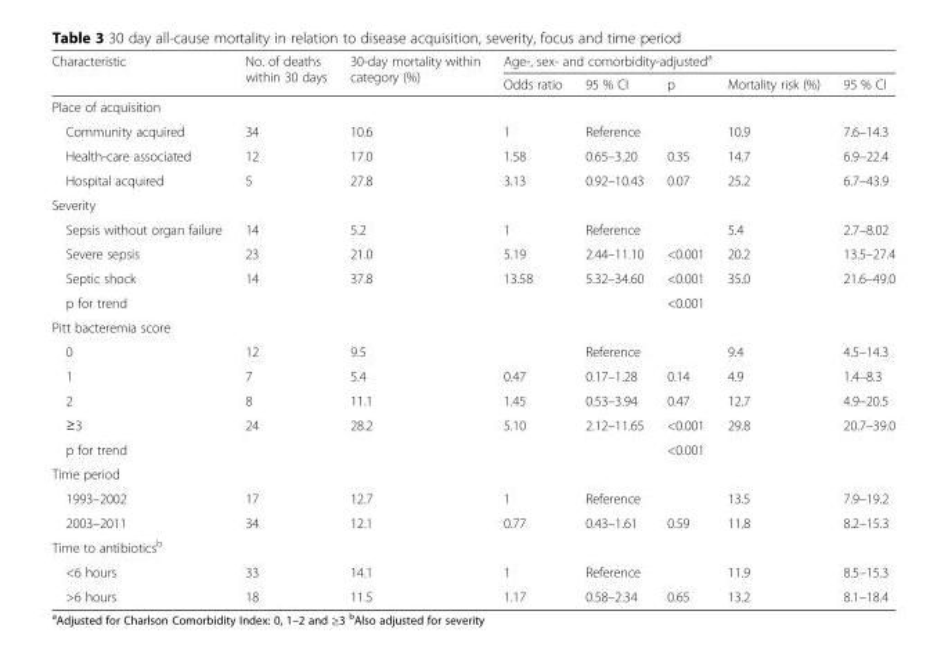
<table><thead><tr><td rowspan="2">Characteristic</td><td rowspan="2">No. of deaths within 30 days</td><td rowspan="2">30-day mortality within category (%)</td><td colspan="5">Age-, sex- and comorbidity-adjusted<sup>a</sup></td></tr><tr><td>Odds ratio</td><td>95 % CI</td><td>p</td><td>Mortality risk (%)</td><td>95 % CI</td></tr></thead><tbody><tr><td colspan="8">Place of acquisition</td></tr><tr><td>Community acquired</td><td>34</td><td>10.6</td><td>1</td><td>Reference</td><td></td><td>10.9</td><td>7.6–14.3</td></tr><tr><td>Health-care associated</td><td>12</td><td>17.0</td><td>1.58</td><td>0.65–3.20</td><td>0.35</td><td>14.7</td><td>6.9–22.4</td></tr><tr><td>Hospital acquired</td><td>5</td><td>27.8</td><td>3.13</td><td>0.92–10.43</td><td>0.07</td><td>25.2</td><td>6.7–43.9</td></tr><tr><td colspan="8">Severity</td></tr><tr><td>Sepsis without organ failure</td><td>14</td><td>5.2</td><td>1</td><td>Reference</td><td></td><td>5.4</td><td>2.7–8.02</td></tr><tr><td>Severe sepsis</td><td>23</td><td>21.0</td><td>5.19</td><td>2.44–11.10</td><td>&lt;0.001</td><td>20.2</td><td>13.5–27.4</td></tr><tr><td>Septic shock</td><td>14</td><td>37.8</td><td>13.58</td><td>5.32–34.60</td><td>&lt;0.001</td><td>35.0</td><td>21.6–49.0</td></tr><tr><td>p for trend</td><td></td><td></td><td></td><td></td><td>&lt;0.001</td><td></td><td></td></tr><tr><td colspan="8">Pitt bacteremia score</td></tr><tr><td>0</td><td>12</td><td>9.5</td><td></td><td>Reference</td><td></td><td>9.4</td><td>4.5–14.3</td></tr><tr><td>1</td><td>7</td><td>5.4</td><td>0.47</td><td>0.17–1.28</td><td>0.14</td><td>4.9</td><td>1.4–8.3</td></tr><tr><td>2</td><td>8</td><td>11.1</td><td>1.45</td><td>0.53–3.94</td><td>0.47</td><td>12.7</td><td>4.9–20.5</td></tr><tr><td>≥3</td><td>24</td><td>28.2</td><td>5.10</td><td>2.12–11.65</td><td>&lt;0.001</td><td>29.8</td><td>20.7–39.0</td></tr><tr><td>p for trend</td><td></td><td></td><td></td><td></td><td>&lt;0.001</td><td></td><td></td></tr><tr><td colspan="8">Time period</td></tr><tr><td>1993–2002</td><td>17</td><td>12.7</td><td>1</td><td>Reference</td><td></td><td>13.5</td><td>7.9–19.2</td></tr><tr><td>2003–2011</td><td>34</td><td>12.1</td><td>0.77</td><td>0.43–1.61</td><td>0.59</td><td>11.8</td><td>8.2–15.3</td></tr><tr><td colspan="8">Time to antibiotics<sup>b</sup></td></tr><tr><td>&lt;6 hours</td><td>33</td><td>14.1</td><td>1</td><td>Reference</td><td></td><td>11.9</td><td>8.5–15.3</td></tr><tr><td>&gt;6 hours</td><td>18</td><td>11.5</td><td>1.17</td><td>0.58–2.34</td><td>0.65</td><td>13.2</td><td>8.1–18.4</td></tr></tbody></table>